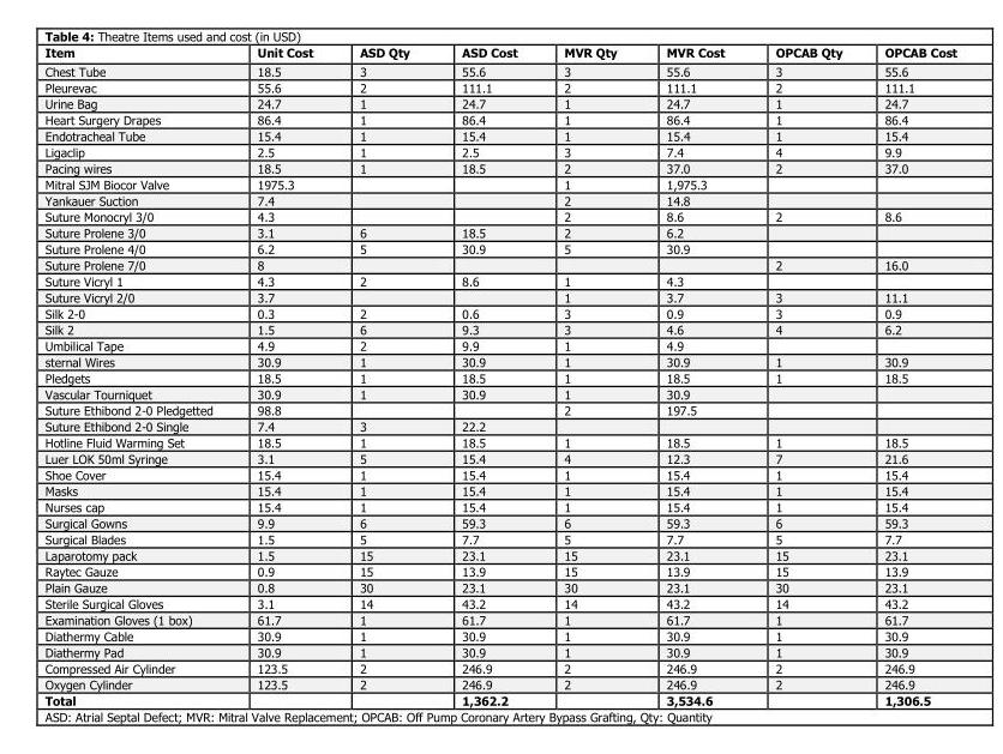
<table><thead><tr><td>Item</td><td>Unit Cost</td><td>ASD Qty</td><td>ASD Cost</td><td>MVR Qty</td><td>MVR Cost</td><td>OPCAB Qty</td><td>OPCAB Cost</td></tr></thead><tbody><tr><td>Chest Tube</td><td>18.5</td><td>3</td><td>55.6</td><td>3</td><td>55.6</td><td>3</td><td>55.6</td></tr><tr><td>Pleurevac</td><td>55.6</td><td>2</td><td>111.1</td><td>2</td><td>111.1</td><td>2</td><td>111.1</td></tr><tr><td>Urine Bag</td><td>24.7</td><td>1</td><td>24.7</td><td>1</td><td>24.7</td><td>1</td><td>24.7</td></tr><tr><td>Heart Surgery Drapes</td><td>86.4</td><td>1</td><td>86.4</td><td>1</td><td>86.4</td><td>1</td><td>86.4</td></tr><tr><td>Endotracheal Tube</td><td>15.4</td><td>1</td><td>15.4</td><td>1</td><td>15.4</td><td>1</td><td>15.4</td></tr><tr><td>Ligaclip</td><td>2.5</td><td>1</td><td>2.5</td><td>3</td><td>7.4</td><td>4</td><td>9.9</td></tr><tr><td>Pacing wires</td><td>18.5</td><td>1</td><td>18.5</td><td>2</td><td>37.0</td><td>2</td><td>37.0</td></tr><tr><td>Mitral SJM Biocor Valve</td><td>1975.3</td><td></td><td></td><td>1</td><td>1,975.3</td><td></td><td></td></tr><tr><td>Yankauer Suction</td><td>7.4</td><td></td><td></td><td>2</td><td>14.8</td><td></td><td></td></tr><tr><td>Suture Monocryl 3/0</td><td>4.3</td><td></td><td></td><td>2</td><td>8.6</td><td>2</td><td>8.6</td></tr><tr><td>Suture Prolene 3/0</td><td>3.1</td><td>6</td><td>18.5</td><td>2</td><td>6.2</td><td></td><td></td></tr><tr><td>Suture Prolene 4/0</td><td>6.2</td><td>5</td><td>30.9</td><td>5</td><td>30.9</td><td></td><td></td></tr><tr><td>Suture Prolene 7/0</td><td>8</td><td></td><td></td><td></td><td></td><td>2</td><td>16.0</td></tr><tr><td>Suture Vicryl 1</td><td>4.3</td><td>2</td><td>8.6</td><td>1</td><td>4.3</td><td></td><td></td></tr><tr><td>Suture Vicryl 2/0</td><td>3.7</td><td></td><td></td><td>1</td><td>3.7</td><td>3</td><td>11.1</td></tr><tr><td>Silk 2-0</td><td>0.3</td><td>2</td><td>0.6</td><td>3</td><td>0.9</td><td>3</td><td>0.9</td></tr><tr><td>Silk 2</td><td>1.5</td><td>6</td><td>9.3</td><td>3</td><td>4.6</td><td>4</td><td>6.2</td></tr><tr><td>Umbilical Tape</td><td>4.9</td><td>2</td><td>9.9</td><td>1</td><td>4.9</td><td></td><td></td></tr><tr><td>sternal Wires</td><td>30.9</td><td>1</td><td>30.9</td><td>1</td><td>30.9</td><td>1</td><td>30.9</td></tr><tr><td>Pledgets</td><td>18.5</td><td>1</td><td>18.5</td><td>1</td><td>18.5</td><td>1</td><td>18.5</td></tr><tr><td>Vascular Tourniquet</td><td>30.9</td><td>1</td><td>30.9</td><td>1</td><td>30.9</td><td></td><td></td></tr><tr><td>Suture Ethibond 2-0 Pledgetted</td><td>98.8</td><td></td><td></td><td>2</td><td>197.5</td><td></td><td></td></tr><tr><td>Suture Ethibond 2-0 Single</td><td>7.4</td><td>3</td><td>22.2</td><td></td><td></td><td></td><td></td></tr><tr><td>Hotline Fluid Warming Set</td><td>18.5</td><td>1</td><td>18.5</td><td>1</td><td>18.5</td><td>1</td><td>18.5</td></tr><tr><td>Luer LOK 50ml Syringe</td><td>3.1</td><td>5</td><td>15.4</td><td>4</td><td>12.3</td><td>7</td><td>21.6</td></tr><tr><td>Shoe Cover</td><td>15.4</td><td>1</td><td>15.4</td><td>1</td><td>15.4</td><td>1</td><td>15.4</td></tr><tr><td>Masks</td><td>15.4</td><td>1</td><td>15.4</td><td>1</td><td>15.4</td><td>1</td><td>15.4</td></tr><tr><td>Nurses cap</td><td>15.4</td><td>1</td><td>15.4</td><td>1</td><td>15.4</td><td>1</td><td>15.4</td></tr><tr><td>Surgical Gowns</td><td>9.9</td><td>6</td><td>59.3</td><td>6</td><td>59.3</td><td>6</td><td>59.3</td></tr><tr><td>Surgical Blades</td><td>1.5</td><td>5</td><td>7.7</td><td>5</td><td>7.7</td><td>5</td><td>7.7</td></tr><tr><td>Laparotomy pack</td><td>1.5</td><td>15</td><td>23.1</td><td>15</td><td>23.1</td><td>15</td><td>23.1</td></tr><tr><td>Raytec Gauze</td><td>0.9</td><td>15</td><td>13.9</td><td>15</td><td>13.9</td><td>15</td><td>13.9</td></tr><tr><td>Plain Gauze</td><td>0.8</td><td>30</td><td>23.1</td><td>30</td><td>23.1</td><td>30</td><td>23.1</td></tr><tr><td>Sterile Surgical Gloves</td><td>3.1</td><td>14</td><td>43.2</td><td>14</td><td>43.2</td><td>14</td><td>43.2</td></tr><tr><td>Examination Gloves (1 box)</td><td>61.7</td><td>1</td><td>61.7</td><td>1</td><td>61.7</td><td>1</td><td>61.7</td></tr><tr><td>Diathermy Cable</td><td>30.9</td><td>1</td><td>30.9</td><td>1</td><td>30.9</td><td>1</td><td>30.9</td></tr><tr><td>Diathermy Pad</td><td>30.9</td><td>1</td><td>30.9</td><td>1</td><td>30.9</td><td>1</td><td>30.9</td></tr><tr><td>Compressed Air Cylinder</td><td>123.5</td><td>2</td><td>246.9</td><td>2</td><td>246.9</td><td>2</td><td>246.9</td></tr><tr><td>Oxygen Cylinder</td><td>123.5</td><td>2</td><td>246.9</td><td>2</td><td>246.9</td><td>2</td><td>246.9</td></tr><tr><td>Total</td><td></td><td></td><td>1,362.2</td><td></td><td>3,534.6</td><td></td><td>1,306.5</td></tr></tbody></table>